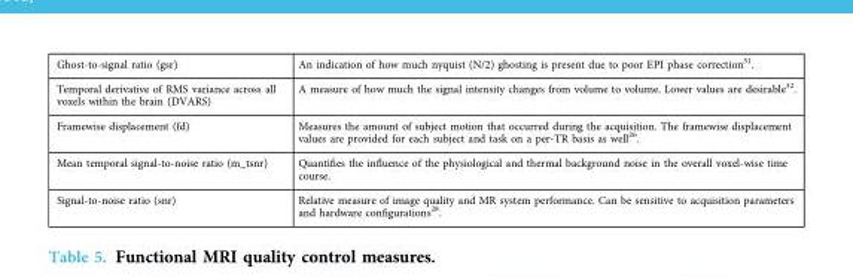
<table><tbody><tr><td>Ghost-to-signal ratio (gsr)</td><td>An indication of how much nyquist (N/2) ghosting is present due to poor EPI phase correction<sup>31</sup>.</td></tr><tr><td>Temporal derivative of RMS variance across all voxels within the brain (DVARS)</td><td>A measure of how much the signal intensity changes from volume to volume. Lower values are desirable<sup>32</sup>.</td></tr><tr><td>Framewise displacement (fd)</td><td>Measures the amount of subject motion that occurred during the acquisition. The framewise displacement values are provided for each subject and task on a per-TR basis as well<sup>26</sup>.</td></tr><tr><td>Mean temporal signal-to-noise ratio (m_tsnr)</td><td>Quantifies the influence of the physiological and thermal background noise in the overall voxel-wise time course.</td></tr><tr><td>Signal-to-noise ratio (snr)</td><td>Relative measure of image quality and MR system performance. Can be sensitive to acquisition parameters and hardware configurations<sup>28</sup>.</td></tr></tbody></table>